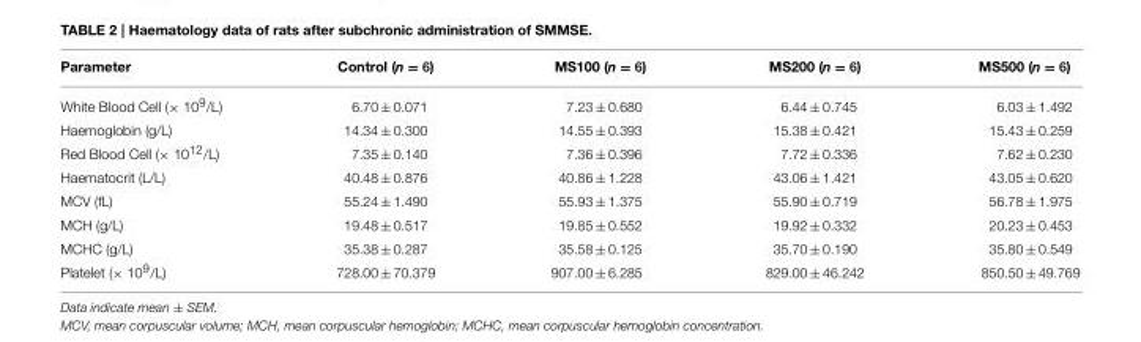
<table><thead><tr><td>Parameter</td><td>Control (n = 6)</td><td>MS100 (n = 6)</td><td>MS200 (n = 6)</td><td>MS500 (n = 6)</td></tr></thead><tbody><tr><td>White Blood Cell (× 10<sup>9</sup>/L)</td><td>6.70 ± 0.071</td><td>7.23 ± 0.680</td><td>6.44 ± 0.745</td><td>6.03 ± 1.492</td></tr><tr><td>Haemoglobin (g/L)</td><td>14.34 ± 0.300</td><td>14.55 ± 0.393</td><td>15.38 ± 0.421</td><td>15.43 ± 0.259</td></tr><tr><td>Red Blood Cell (× 10<sup>12</sup>/L)</td><td>7.35 ± 0.140</td><td>7.36 ± 0.396</td><td>7.72 ± 0.336</td><td>7.62 ± 0.230</td></tr><tr><td>Haematocrit (L/L)</td><td>40.48 ± 0.876</td><td>40.86 ± 1.228</td><td>43.06 ± 1.421</td><td>43.05 ± 0.620</td></tr><tr><td>MCV (fL)</td><td>55.24 ± 1.490</td><td>55.93 ± 1.375</td><td>55.90 ± 0.719</td><td>56.78 ± 1.975</td></tr><tr><td>MCH (g/L)</td><td>19.48 ± 0.517</td><td>19.85 ± 0.552</td><td>19.92 ± 0.332</td><td>20.23 ± 0.453</td></tr><tr><td>MCHC (g/L)</td><td>35.38 ± 0.287</td><td>35.58 ± 0.125</td><td>35.70 ± 0.190</td><td>35.80 ± 0.549</td></tr><tr><td>Platelet (× 10<sup>9</sup>/L)</td><td>728.00 ± 70.379</td><td>907.00 ± 6.285</td><td>829.00 ± 46.242</td><td>850.50 ± 49.769</td></tr></tbody></table>